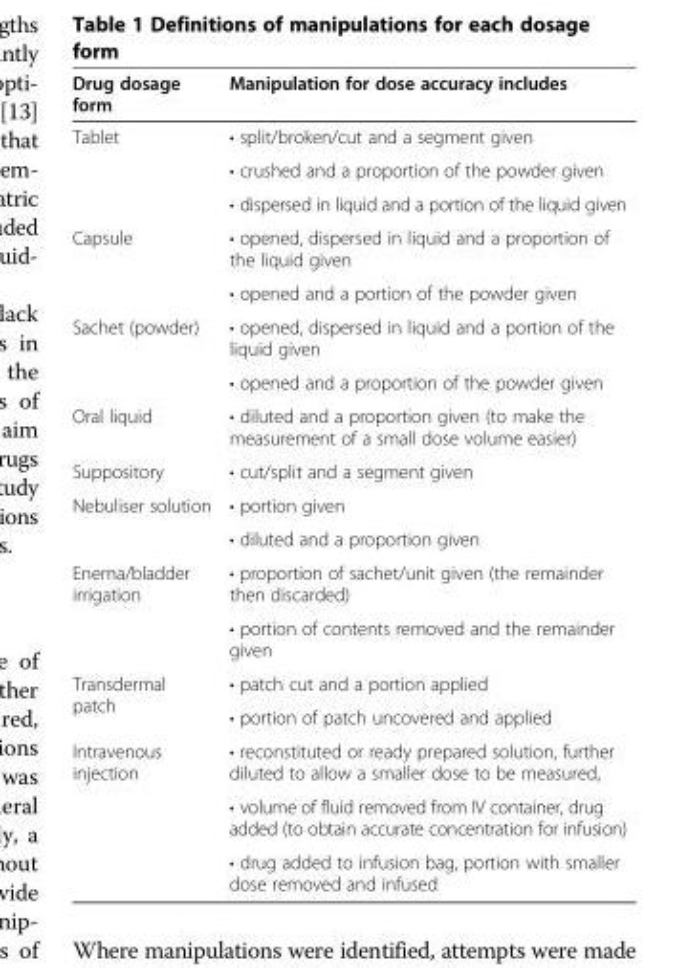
<table><thead><tr><td>Drug dosage form</td><td>Manipulation for dose accuracy includes</td></tr></thead><tbody><tr><td rowspan="3">Tablet</td><td>• split/broken/cut and a segment given</td></tr><tr><td>• crushed and a proportion of the powder given</td></tr><tr><td>• dispersed in liquid and a portion of the liquid given</td></tr><tr><td rowspan="2">Capsule</td><td>• opened, dispersed in liquid and a proportion of the liquid given</td></tr><tr><td>• opened and a portion of the powder given</td></tr><tr><td rowspan="2">Sachet (powder)</td><td>• opened, dispersed in liquid and a portion of the liquid given</td></tr><tr><td>• opened and a proportion of the powder given</td></tr><tr><td>Oral liquid</td><td>• diluted and a proportion given (to make the measurement of a small dose volume easier)</td></tr><tr><td>Suppository</td><td>• cut/split and a segment given</td></tr><tr><td rowspan="2">Nebuliser solution</td><td>• portion given</td></tr><tr><td>• diluted and a proportion given</td></tr><tr><td rowspan="2">Enema/bladder irrigation</td><td>• proportion of sachet/unit given (the remainder then discarded)</td></tr><tr><td>• portion of contents removed and the remainder given</td></tr><tr><td rowspan="2">Transdermal patch</td><td>• patch cut and a portion applied</td></tr><tr><td>• portion of patch uncovered and applied</td></tr><tr><td rowspan="3">Intravenous injection</td><td>• reconstituted or ready prepared solution, further diluted to allow a smaller dose to be measured,</td></tr><tr><td>• volume of fluid removed from IV container, drug added (to obtain accurate concentration for infusion)</td></tr><tr><td>• drug added to infusion bag, portion with smaller dose removed and infused</td></tr></tbody></table>